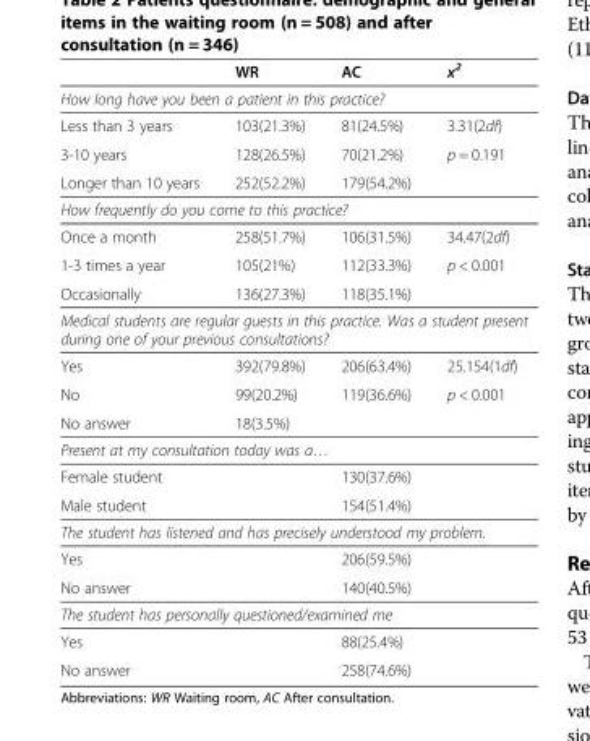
<table><thead><tr><td></td><td>WR</td><td>AC</td><td>x<sup>2</sup></td></tr></thead><tbody><tr><td colspan="4">How long have you been a patient in this practice?</td></tr><tr><td>Less than 3 years</td><td>103(21.3%)</td><td>81(24.5%)</td><td>3.31(2df)</td></tr><tr><td>3-10 years</td><td>128(26.5%)</td><td>70(21.2%)</td><td>p = 0.191</td></tr><tr><td>Longer than 10 years</td><td>252(52.2%)</td><td>179(54.2%)</td><td></td></tr><tr><td colspan="4">How frequently do you come to this practice?</td></tr><tr><td>Once a month</td><td>258(51.7%)</td><td>106(31.5%)</td><td>34.47(2df)</td></tr><tr><td>1-3 times a year</td><td>105(21%)</td><td>112(33.3%)</td><td>p &lt; 0.001</td></tr><tr><td>Occasionally</td><td>136(27.3%)</td><td>118(35.1%)</td><td></td></tr><tr><td colspan="4">Medical students are regular guests in this practice. Was a student present during one of your previous consultations?</td></tr><tr><td>Yes</td><td>392(79.8%)</td><td>206(63.4%)</td><td>25.154(1df)</td></tr><tr><td>No</td><td>99(20.2%)</td><td>119(36.6%)</td><td>p &lt; 0.001</td></tr><tr><td>No answer</td><td>18(3.5%)</td><td></td><td></td></tr><tr><td colspan="4">Present at my consultation today was a…</td></tr><tr><td>Female student</td><td></td><td>130(37.6%)</td><td></td></tr><tr><td>Male student</td><td></td><td>154(51.4%)</td><td></td></tr><tr><td colspan="4">The student has listened and has precisely understood my problem.</td></tr><tr><td>Yes</td><td></td><td>206(59.5%)</td><td></td></tr><tr><td>No answer</td><td></td><td>140(40.5%)</td><td></td></tr><tr><td colspan="4">The student has personally questioned/examined me</td></tr><tr><td>Yes</td><td></td><td>88(25.4%)</td><td></td></tr><tr><td>No answer</td><td></td><td>258(74.6%)</td><td></td></tr></tbody></table>